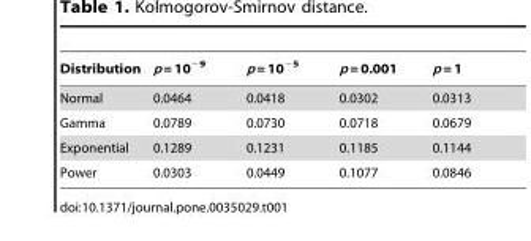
<table><thead><tr><td>Distribution</td><td>p = 10<sup>−9</sup></td><td>p = 10<sup>−5</sup></td><td>p = 0.001</td><td>p = 1</td></tr></thead><tbody><tr><td>Normal</td><td>0.0464</td><td>0.0418</td><td>0.0302</td><td>0.0313</td></tr><tr><td>Gamma</td><td>0.0789</td><td>0.0730</td><td>0.0718</td><td>0.0679</td></tr><tr><td>Exponential</td><td>0.1289</td><td>0.1231</td><td>0.1185</td><td>0.1144</td></tr><tr><td>Power</td><td>0.0303</td><td>0.0449</td><td>0.1077</td><td>0.0846</td></tr></tbody></table>